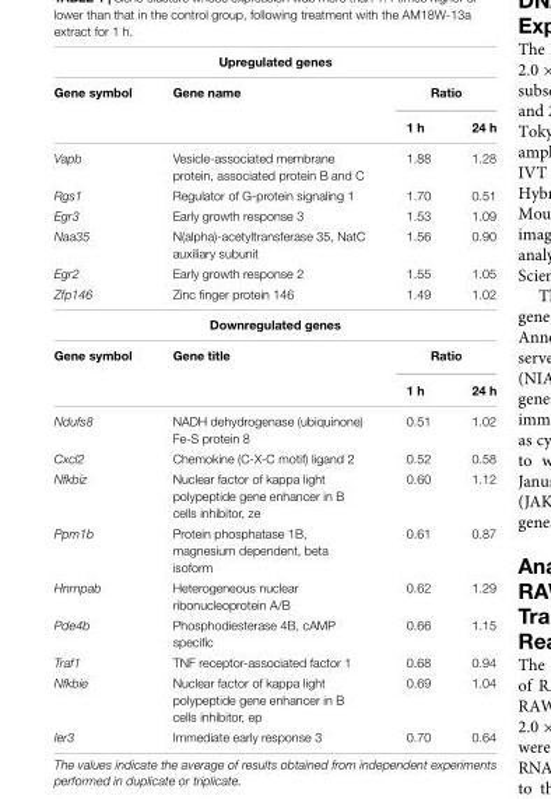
<table><thead><tr><td colspan="4">Upregulated genes</td></tr><tr><td rowspan="2">Gene symbol</td><td rowspan="2">Gene name</td><td colspan="2">Ratio</td></tr><tr><td>1 h</td><td>24 h</td></tr></thead><tbody><tr><td>Vapb</td><td>Vesicle-associated membrane protein, associated protein B and C</td><td>1.88</td><td>1.28</td></tr><tr><td>Rgs1</td><td>Regulator of G-protein signaling 1</td><td>1.70</td><td>0.51</td></tr><tr><td>Egr3</td><td>Early growth response 3</td><td>1.53</td><td>1.09</td></tr><tr><td>Naa35</td><td>N(alpha)-acetyltransferase 35, NatC auxiliary subunit</td><td>1.56</td><td>0.90</td></tr><tr><td>Egr2</td><td>Early growth response 2</td><td>1.55</td><td>1.05</td></tr><tr><td>Zfp146</td><td>Zinc finger protein 146</td><td>1.49</td><td>1.02</td></tr><tr><td colspan="4">Downregulated genes</td></tr><tr><td rowspan="2">Gene symbol</td><td>Gene title</td><td colspan="2">Ratio</td></tr><tr><td></td><td>1 h</td><td>24 h</td></tr><tr><td>Ndufs8</td><td>NADH dehydrogenase (ubiquinone) Fe-S protein 8</td><td>0.51</td><td>1.02</td></tr><tr><td>Cxcl2</td><td>Chemokine (C-X-C motif) ligand 2</td><td>0.52</td><td>0.58</td></tr><tr><td>Nfkbiz</td><td>Nuclear factor of kappa light polypeptide gene enhancer in B cells inhibitor, ze</td><td>0.60</td><td>1.12</td></tr><tr><td>Ppm1b</td><td>Protein phosphatase 1B, magnesium dependent, beta isoform</td><td>0.61</td><td>0.87</td></tr><tr><td>Hnrnpab</td><td>Heterogeneous nuclear ribonucleoprotein A/B</td><td>0.62</td><td>1.29</td></tr><tr><td>Pde4b</td><td>Phosphodiesterase 4B, cAMP specific</td><td>0.66</td><td>1.15</td></tr><tr><td>Traf1</td><td>TNF receptor-associated factor 1</td><td>0.68</td><td>0.94</td></tr><tr><td>Nfkbie</td><td>Nuclear factor of kappa light polypeptide gene enhancer in B cells inhibitor, ep</td><td>0.69</td><td>1.04</td></tr><tr><td>Ier3</td><td>Immediate early response 3</td><td>0.70</td><td>0.64</td></tr></tbody></table>